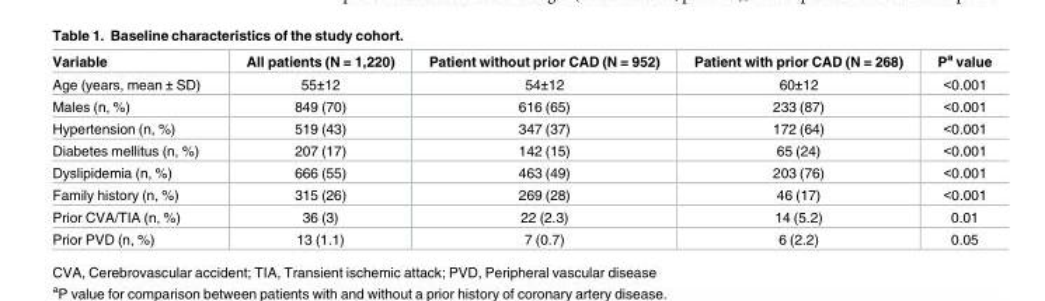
<table><thead><tr><td>Variable</td><td>All patients (N = 1,220)</td><td>Patient without prior CAD (N = 952)</td><td>Patient with prior CAD (N = 268)</td><td>P<sup>a</sup> value</td></tr></thead><tbody><tr><td>Age (years, mean ± SD)</td><td>55±12</td><td>54±12</td><td>60±12</td><td>&lt;0.001</td></tr><tr><td>Males (n, %)</td><td>849 (70)</td><td>616 (65)</td><td>233 (87)</td><td>&lt;0.001</td></tr><tr><td>Hypertension (n, %)</td><td>519 (43)</td><td>347 (37)</td><td>172 (64)</td><td>&lt;0.001</td></tr><tr><td>Diabetes mellitus (n, %)</td><td>207 (17)</td><td>142 (15)</td><td>65 (24)</td><td>&lt;0.001</td></tr><tr><td>Dyslipidemia (n, %)</td><td>666 (55)</td><td>463 (49)</td><td>203 (76)</td><td>&lt;0.001</td></tr><tr><td>Family history (n, %)</td><td>315 (26)</td><td>269 (28)</td><td>46 (17)</td><td>&lt;0.001</td></tr><tr><td>Prior CVA/TIA (n, %)</td><td>36 (3)</td><td>22 (2.3)</td><td>14 (5.2)</td><td>0.01</td></tr><tr><td>Prior PVD (n, %)</td><td>13 (1.1)</td><td>7 (0.7)</td><td>6 (2.2)</td><td>0.05</td></tr></tbody></table>